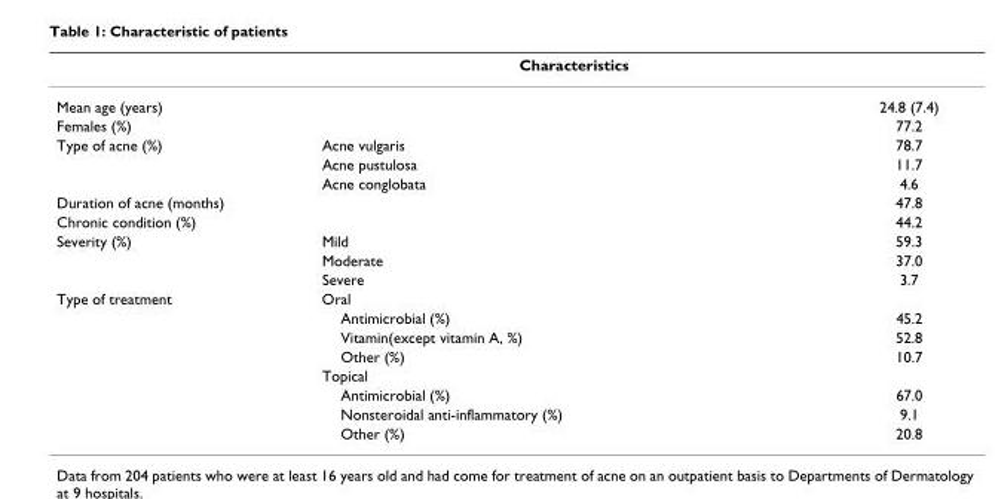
<table><thead><tr><td></td><td>Characteristics</td><td></td></tr></thead><tbody><tr><td colspan="2">Mean age (years)</td><td>24.8 (7.4)</td></tr><tr><td colspan="2">Females (%)</td><td>77.2</td></tr><tr><td rowspan="3">Type of acne (%)</td><td>Acne vulgaris</td><td>78.7</td></tr><tr><td>Acne pustulosa</td><td>11.7</td></tr><tr><td>Acne conglobata</td><td>4.6</td></tr><tr><td colspan="2">Duration of acne (months)</td><td>47.8</td></tr><tr><td colspan="2">Chronic condition (%)</td><td>44.2</td></tr><tr><td rowspan="3">Severity (%)</td><td>Mild</td><td>59.3</td></tr><tr><td>Moderate</td><td>37.0</td></tr><tr><td>Severe</td><td>3.7</td></tr><tr><td rowspan="8">Type of treatment</td><td>Oral</td><td></td></tr><tr><td>Antimicrobial (%)</td><td>45.2</td></tr><tr><td>Vitamin(except vitamin A, %)</td><td>52.8</td></tr><tr><td>Other (%)</td><td>10.7</td></tr><tr><td>Topical</td><td></td></tr><tr><td>Antimicrobial (%)</td><td>67.0</td></tr><tr><td>Nonsteroidal anti-inflammatory (%)</td><td>9.1</td></tr><tr><td>Other (%)</td><td>20.8</td></tr></tbody></table>